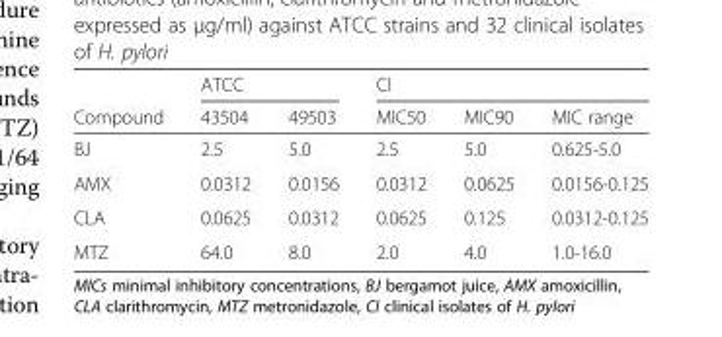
<table><thead><tr><td rowspan="2">Compound</td><td colspan="2">ATCC</td><td colspan="3">CI</td></tr><tr><td>43504</td><td>49503</td><td>MIC50</td><td>MIC90</td><td>MIC range</td></tr></thead><tbody><tr><td>BJ</td><td>2.5</td><td>5.0</td><td>2.5</td><td>5.0</td><td>0.625-5.0</td></tr><tr><td>AMX</td><td>0.0312</td><td>0.0156</td><td>0.0312</td><td>0.0625</td><td>0.0156-0.125</td></tr><tr><td>CLA</td><td>0.0625</td><td>0.0312</td><td>0.0625</td><td>0.125</td><td>0.0312-0.125</td></tr><tr><td>MTZ</td><td>64.0</td><td>8.0</td><td>2.0</td><td>4.0</td><td>1.0-16.0</td></tr></tbody></table>